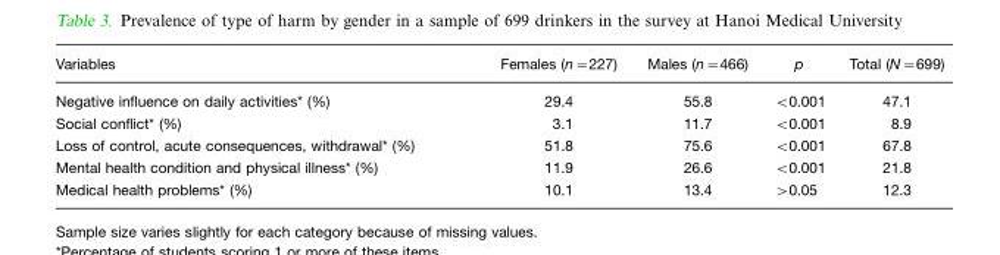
<table><thead><tr><td>Variables</td><td>Females (n=227)</td><td>Males (n=466)</td><td>p</td><td>Total (N=699)</td></tr></thead><tbody><tr><td>Negative influence on daily activities* (%)</td><td>29.4</td><td>55.8</td><td>&lt;0.001</td><td>47.1</td></tr><tr><td>Social conflict* (%)</td><td>3.1</td><td>11.7</td><td>&lt;0.001</td><td>8.9</td></tr><tr><td>Loss of control, acute consequences, withdrawal* (%)</td><td>51.8</td><td>75.6</td><td>&lt;0.001</td><td>67.8</td></tr><tr><td>Mental health condition and physical illness* (%)</td><td>11.9</td><td>26.6</td><td>&lt;0.001</td><td>21.8</td></tr><tr><td>Medical health problems* (%)</td><td>10.1</td><td>13.4</td><td>&gt;0.05</td><td>12.3</td></tr></tbody></table>